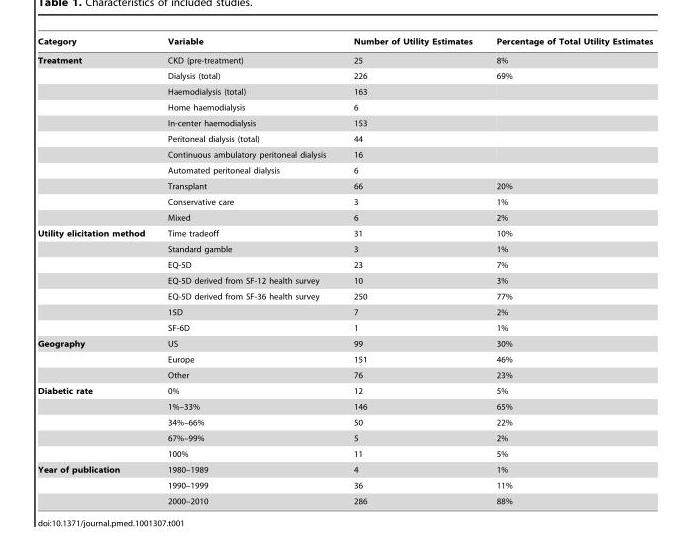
<table><thead><tr><td>Category</td><td>Variable</td><td>Number of Utility Estimates</td><td>Percentage of Total Utility Estimates</td></tr></thead><tbody><tr><td rowspan="11">Treatment</td><td>CKD (pre-treatment)</td><td>25</td><td>8%</td></tr><tr><td>Dialysis (total)</td><td>226</td><td>69%</td></tr><tr><td>Haemodialysis (total)</td><td>163</td><td></td></tr><tr><td>Home haemodialysis</td><td>6</td><td></td></tr><tr><td>In-center haemodialysis</td><td>153</td><td></td></tr><tr><td>Peritoneal dialysis (total)</td><td>44</td><td></td></tr><tr><td>Continuous ambulatory peritoneal dialysis</td><td>16</td><td></td></tr><tr><td>Automated peritoneal dialysis</td><td>6</td><td></td></tr><tr><td>Transplant</td><td>66</td><td>20%</td></tr><tr><td>Conservative care</td><td>3</td><td>1%</td></tr><tr><td>Mixed</td><td>6</td><td>2%</td></tr><tr><td rowspan="7">Utility elicitation method</td><td>Time tradeoff</td><td>31</td><td>10%</td></tr><tr><td>Standard gamble</td><td>3</td><td>1%</td></tr><tr><td>EQ-5D</td><td>23</td><td>7%</td></tr><tr><td>EQ-5D derived from SF-12 health survey</td><td>10</td><td>3%</td></tr><tr><td>EQ-5D derived from SF-36 health survey</td><td>250</td><td>77%</td></tr><tr><td>15D</td><td>7</td><td>2%</td></tr><tr><td>SF-6D</td><td>1</td><td>1%</td></tr><tr><td rowspan="3">Geography</td><td>US</td><td>99</td><td>30%</td></tr><tr><td>Europe</td><td>151</td><td>46%</td></tr><tr><td>Other</td><td>76</td><td>23%</td></tr><tr><td rowspan="5">Diabetic rate</td><td>0%</td><td>12</td><td>5%</td></tr><tr><td>1%–33%</td><td>146</td><td>65%</td></tr><tr><td>34%–66%</td><td>50</td><td>22%</td></tr><tr><td>67%–99%</td><td>5</td><td>2%</td></tr><tr><td>100%</td><td>11</td><td>5%</td></tr><tr><td rowspan="3">Year of publication</td><td>1980–1989</td><td>4</td><td>1%</td></tr><tr><td>1990–1999</td><td>36</td><td>11%</td></tr><tr><td>2000–2010</td><td>286</td><td>88%</td></tr></tbody></table>